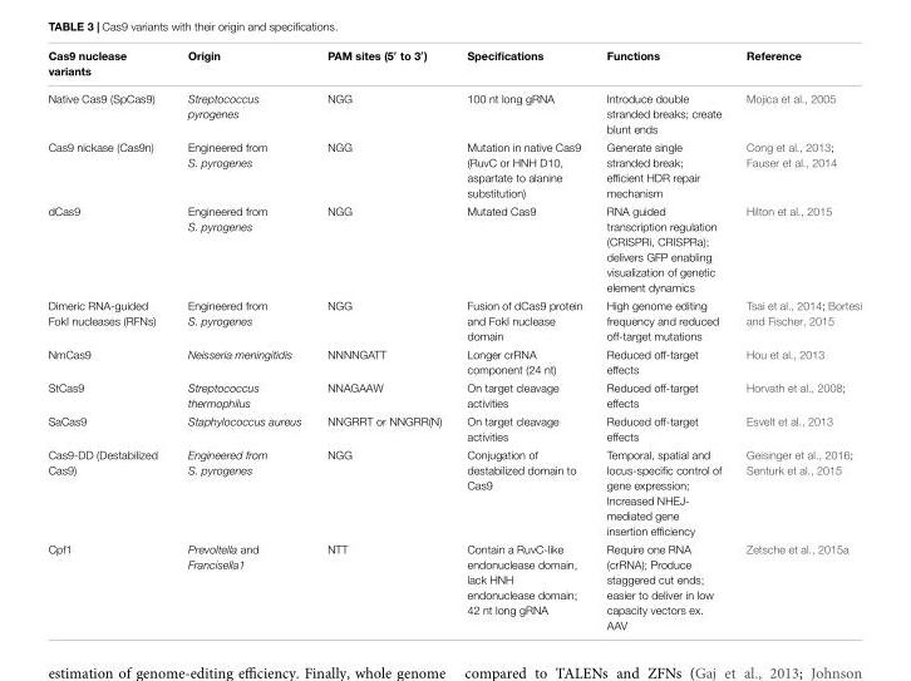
<table><thead><tr><td>Cas9 nuclease variants</td><td>Origin</td><td>PAM sites (5′ to 3′)</td><td>Specifications</td><td>Functions</td><td>Reference</td></tr></thead><tbody><tr><td>Native Cas9 (SpCas9)</td><td>Streptococcus pyrogenes</td><td>NGG</td><td>100 nt long gRNA</td><td>Introduce double stranded breaks; create blunt ends</td><td>Mojica et al., 2005</td></tr><tr><td>Cas9 nickase (Cas9n)</td><td>Engineered from S. pyrogenes</td><td>NGG</td><td>Mutation in native Cas9 (RuvC or HNH D10, aspartate to alanine substitution)</td><td>Generate single stranded break; efficient HDR repair mechanism</td><td>Cong et al., 2013; Fauser et al., 2014</td></tr><tr><td>dCas9</td><td>Engineered from S. pyrogenes</td><td>NGG</td><td>Mutated Cas9</td><td>RNA guided transcription regulation (CRISPRi, CRISPRa); delivers GFP enabling visualization of genetic element dynamics</td><td>Hilton et al., 2015</td></tr><tr><td>Dimeric RNA-guided FokI nucleases (RFNs)</td><td>Engineered from S. pyrogenes</td><td>NGG</td><td>Fusion of dCas9 protein and FokI nuclease domain</td><td>High genome editing frequency and reduced off-target mutations</td><td>Tsai et al., 2014; Bortesi and Fischer, 2015</td></tr><tr><td>NmCas9</td><td>Neisseria meningitidis</td><td>NNNNGATT</td><td>Longer crRNA component (24 nt)</td><td>Reduced off-target effects</td><td>Hou et al., 2013</td></tr><tr><td>StCas9</td><td>Streptococcus thermophilus</td><td>NNAGAAW</td><td>On target cleavage activities</td><td>Reduced off-target effects</td><td>Horvath et al., 2008;</td></tr><tr><td>SaCas9</td><td>Staphylococcus aureus</td><td>NNGRRT or NNGRR(N)</td><td>On target cleavage activities</td><td>Reduced off-target effects</td><td>Esvelt et al., 2013</td></tr><tr><td>Cas9-DD (Destabilized Cas9)</td><td>Engineered from S. pyrogenes</td><td>NGG</td><td>Conjugation of destabilized domain to Cas9</td><td>Temporal, spatial and locus-specific control of gene expression; Increased NHEJ- mediated gene insertion efficiency</td><td>Geisinger et al., 2016; Senturk et al., 2015</td></tr><tr><td>Cpf1</td><td>Prevoltella and Francisella1</td><td>NTT</td><td>Contain a RuvC-like endonuclease domain, lack HNH endonuclease domain; 42 nt long gRNA</td><td>Require one RNA (crRNA); Produce staggered cut ends; easier to deliver in low capacity vectors ex. AAV</td><td>Zetsche et al., 2015a</td></tr></tbody></table>